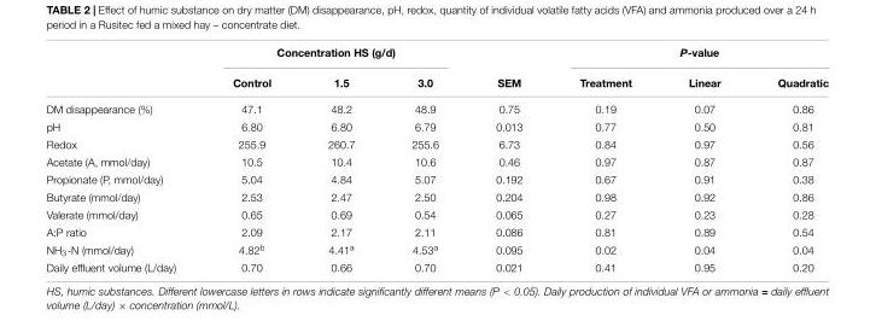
<table><thead><tr><td rowspan="2"></td><td colspan="3">Concentration HS (g/d)</td><td rowspan="2">SEM</td><td colspan="3">P-value</td></tr><tr><td>Control</td><td>1.5</td><td>3.0</td><td>Treatment</td><td>Linear</td><td>Quadratic</td></tr></thead><tbody><tr><td>DM disappearance (%)</td><td>47.1</td><td>48.2</td><td>48.9</td><td>0.75</td><td>0.19</td><td>0.07</td><td>0.86</td></tr><tr><td>pH</td><td>6.80</td><td>6.80</td><td>6.79</td><td>0.013</td><td>0.77</td><td>0.50</td><td>0.81</td></tr><tr><td>Redox</td><td>255.9</td><td>260.7</td><td>255.6</td><td>6.73</td><td>0.84</td><td>0.97</td><td>0.56</td></tr><tr><td>Acetate (A, mmol/day)</td><td>10.5</td><td>10.4</td><td>10.6</td><td>0.46</td><td>0.97</td><td>0.87</td><td>0.87</td></tr><tr><td>Propionate (P, mmol/day)</td><td>5.04</td><td>4.84</td><td>5.07</td><td>0.192</td><td>0.67</td><td>0.91</td><td>0.38</td></tr><tr><td>Butyrate (mmol/day)</td><td>2.53</td><td>2.47</td><td>2.50</td><td>0.204</td><td>0.98</td><td>0.92</td><td>0.86</td></tr><tr><td>Valerate (mmol/day)</td><td>0.65</td><td>0.69</td><td>0.54</td><td>0.065</td><td>0.27</td><td>0.23</td><td>0.28</td></tr><tr><td>A:P ratio</td><td>2.09</td><td>2.17</td><td>2.11</td><td>0.086</td><td>0.81</td><td>0.89</td><td>0.54</td></tr><tr><td>NH<sub>3</sub>-N (mmol/day)</td><td>4.82<sup>b</sup></td><td>4.41<sup>a</sup></td><td>4.53<sup>a</sup></td><td>0.095</td><td>0.02</td><td>0.04</td><td>0.04</td></tr><tr><td>Daily effluent volume (L/day)</td><td>0.70</td><td>0.66</td><td>0.70</td><td>0.021</td><td>0.41</td><td>0.95</td><td>0.20</td></tr></tbody></table>